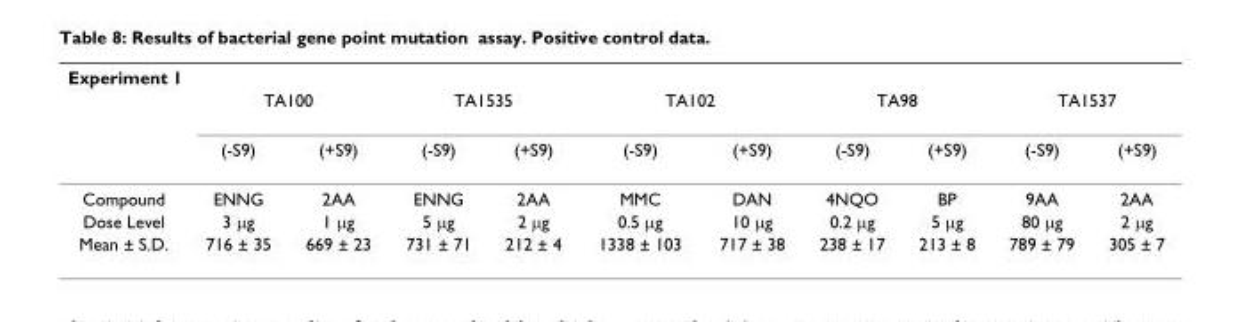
<table><thead><tr><td colspan="11">Experiment 1</td></tr><tr><td rowspan="2"></td><td colspan="2">TA100</td><td colspan="2">TA1535</td><td colspan="2">TA102</td><td colspan="2">TA98</td><td colspan="2">TA1537</td></tr><tr><td>(-S9)</td><td>(+S9)</td><td>(-S9)</td><td>(+S9)</td><td>(-S9)</td><td>(+S9)</td><td>(-S9)</td><td>(+S9)</td><td>(-S9)</td><td>(+S9)</td></tr></thead><tbody><tr><td>Compound</td><td>ENNG</td><td>2AA</td><td>ENNG</td><td>2AA</td><td>MMC</td><td>DAN</td><td>4NQO</td><td>BP</td><td>9AA</td><td>2AA</td></tr><tr><td>Dose Level</td><td>3 μg</td><td>1 μg</td><td>5 μg</td><td>2 μg</td><td>0.5 μg</td><td>10 μg</td><td>0.2 μg</td><td>5 μg</td><td>80 μg</td><td>2 μg</td></tr><tr><td>Mean ± S.D.</td><td>716 ± 35</td><td>669 ± 23</td><td>731 ± 71</td><td>212 ± 4</td><td>1338 ± 103</td><td>717 ± 38</td><td>238 ± 17</td><td>213 ± 8</td><td>789 ± 79</td><td>305 ± 7</td></tr></tbody></table>